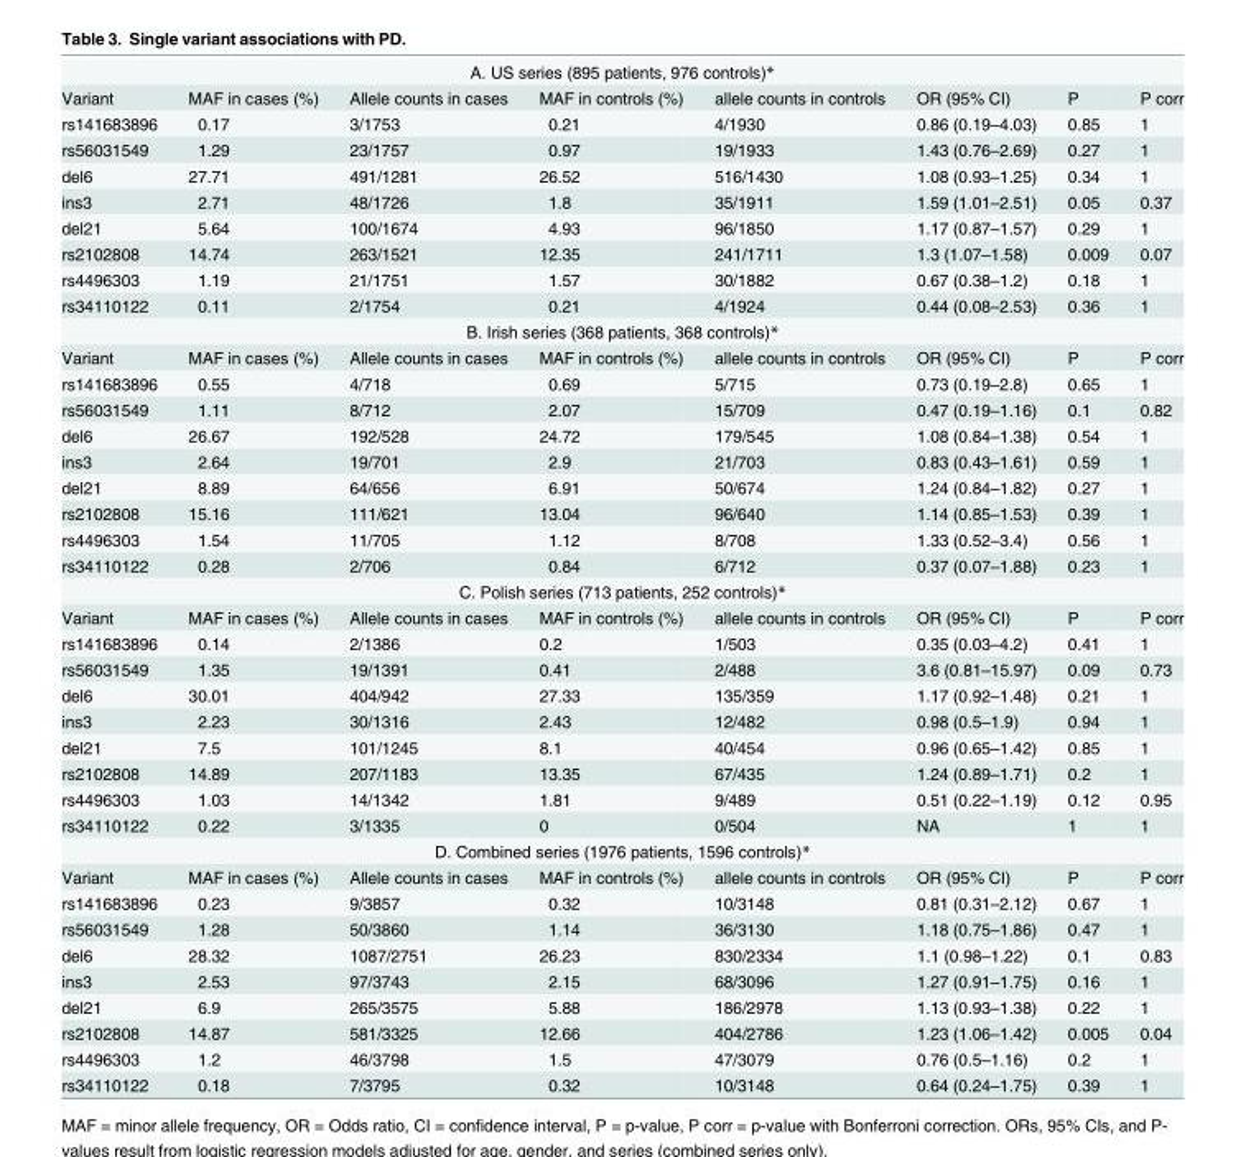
<table><tbody><tr><td colspan="8">A. US series (895 patients, 976 controls)*</td></tr><tr><td>Variant</td><td>MAF in cases (%)</td><td>Allele counts in cases</td><td>MAF in controls (%)</td><td>allele counts in controls</td><td>OR (95% CI)</td><td>P</td><td>P corr</td></tr><tr><td>rs141683896</td><td>0.17</td><td>3/1753</td><td>0.21</td><td>4/1930</td><td>0.86 (0.19–4.03)</td><td>0.85</td><td>1</td></tr><tr><td>rs56031549</td><td>1.29</td><td>23/1757</td><td>0.97</td><td>19/1933</td><td>1.43 (0.76–2.69)</td><td>0.27</td><td>1</td></tr><tr><td>del6</td><td>27.71</td><td>491/1281</td><td>26.52</td><td>516/1430</td><td>1.08 (0.93–1.25)</td><td>0.34</td><td>1</td></tr><tr><td>ins3</td><td>2.71</td><td>48/1726</td><td>1.8</td><td>35/1911</td><td>1.59 (1.01–2.51)</td><td>0.05</td><td>0.37</td></tr><tr><td>del21</td><td>5.64</td><td>100/1674</td><td>4.93</td><td>96/1850</td><td>1.17 (0.87–1.57)</td><td>0.29</td><td>1</td></tr><tr><td>rs2102808</td><td>14.74</td><td>263/1521</td><td>12.35</td><td>241/1711</td><td>1.3 (1.07–1.58)</td><td>0.009</td><td>0.07</td></tr><tr><td>rs4496303</td><td>1.19</td><td>21/1751</td><td>1.57</td><td>30/1882</td><td>0.67 (0.38–1.2)</td><td>0.18</td><td>1</td></tr><tr><td>rs34110122</td><td>0.11</td><td>2/1754</td><td>0.21</td><td>4/1924</td><td>0.44 (0.08–2.53)</td><td>0.36</td><td>1</td></tr><tr><td colspan="8">B. Irish series (368 patients, 368 controls)*</td></tr><tr><td>Variant</td><td>MAF in cases (%)</td><td>Allele counts in cases</td><td>MAF in controls (%)</td><td>allele counts in controls</td><td>OR (95% CI)</td><td>P</td><td>P corr</td></tr><tr><td>rs141683896</td><td>0.55</td><td>4/718</td><td>0.69</td><td>5/715</td><td>0.73 (0.19–2.8)</td><td>0.65</td><td>1</td></tr><tr><td>rs56031549</td><td>1.11</td><td>8/712</td><td>2.07</td><td>15/709</td><td>0.47 (0.19–1.16)</td><td>0.1</td><td>0.82</td></tr><tr><td>del6</td><td>26.67</td><td>192/528</td><td>24.72</td><td>179/545</td><td>1.08 (0.84–1.38)</td><td>0.54</td><td>1</td></tr><tr><td>ins3</td><td>2.64</td><td>19/701</td><td>2.9</td><td>21/703</td><td>0.83 (0.43–1.61)</td><td>0.59</td><td>1</td></tr><tr><td>del21</td><td>8.89</td><td>64/656</td><td>6.91</td><td>50/674</td><td>1.24 (0.84–1.82)</td><td>0.27</td><td>1</td></tr><tr><td>rs2102808</td><td>15.16</td><td>111/621</td><td>13.04</td><td>96/640</td><td>1.14 (0.85–1.53)</td><td>0.39</td><td>1</td></tr><tr><td>rs4496303</td><td>1.54</td><td>11/705</td><td>1.12</td><td>8/708</td><td>1.33 (0.52–3.4)</td><td>0.56</td><td>1</td></tr><tr><td>rs34110122</td><td>0.28</td><td>2/706</td><td>0.84</td><td>6/712</td><td>0.37 (0.07–1.88)</td><td>0.23</td><td>1</td></tr><tr><td colspan="8">C. Polish series (713 patients, 252 controls)*</td></tr><tr><td>Variant</td><td>MAF in cases (%)</td><td>Allele counts in cases</td><td>MAF in controls (%)</td><td>allele counts in controls</td><td>OR (95% CI)</td><td>P</td><td>P corr</td></tr><tr><td>rs141683896</td><td>0.14</td><td>2/1386</td><td>0.2</td><td>1/503</td><td>0.35 (0.03–4.2)</td><td>0.41</td><td>1</td></tr><tr><td>rs56031549</td><td>1.35</td><td>19/1391</td><td>0.41</td><td>2/488</td><td>3.6 (0.81–15.97)</td><td>0.09</td><td>0.73</td></tr><tr><td>del6</td><td>30.01</td><td>404/942</td><td>27.33</td><td>135/359</td><td>1.17 (0.92–1.48)</td><td>0.21</td><td>1</td></tr><tr><td>ins3</td><td>2.23</td><td>30/1316</td><td>2.43</td><td>12/482</td><td>0.98 (0.5–1.9)</td><td>0.94</td><td>1</td></tr><tr><td>del21</td><td>7.5</td><td>101/1245</td><td>8.1</td><td>40/454</td><td>0.96 (0.65–1.42)</td><td>0.85</td><td>1</td></tr><tr><td>rs2102808</td><td>14.89</td><td>207/1183</td><td>13.35</td><td>67/435</td><td>1.24 (0.89–1.71)</td><td>0.2</td><td>1</td></tr><tr><td>rs4496303</td><td>1.03</td><td>14/1342</td><td>1.81</td><td>9/489</td><td>0.51 (0.22–1.19)</td><td>0.12</td><td>0.95</td></tr><tr><td>rs34110122</td><td>0.22</td><td>3/1335</td><td>0</td><td>0/504</td><td>NA</td><td>1</td><td>1</td></tr><tr><td colspan="8">D. Combined series (1976 patients, 1596 controls)*</td></tr><tr><td>Variant</td><td>MAF in cases (%)</td><td>Allele counts in cases</td><td>MAF in controls (%)</td><td>allele counts in controls</td><td>OR (95% CI)</td><td>P</td><td>P corr</td></tr><tr><td>rs141683896</td><td>0.23</td><td>9/3857</td><td>0.32</td><td>10/3148</td><td>0.81 (0.31–2.12)</td><td>0.67</td><td>1</td></tr><tr><td>rs56031549</td><td>1.28</td><td>50/3860</td><td>1.14</td><td>36/3130</td><td>1.18 (0.75–1.86)</td><td>0.47</td><td>1</td></tr><tr><td>del6</td><td>28.32</td><td>1087/2751</td><td>26.23</td><td>830/2334</td><td>1.1 (0.98–1.22)</td><td>0.1</td><td>0.83</td></tr><tr><td>ins3</td><td>2.53</td><td>97/3743</td><td>2.15</td><td>68/3096</td><td>1.27 (0.91–1.75)</td><td>0.16</td><td>1</td></tr><tr><td>del21</td><td>6.9</td><td>265/3575</td><td>5.88</td><td>186/2978</td><td>1.13 (0.93–1.38)</td><td>0.22</td><td>1</td></tr><tr><td>rs2102808</td><td>14.87</td><td>581/3325</td><td>12.66</td><td>404/2786</td><td>1.23 (1.06–1.42)</td><td>0.005</td><td>0.04</td></tr><tr><td>rs4496303</td><td>1.2</td><td>46/3798</td><td>1.5</td><td>47/3079</td><td>0.76 (0.5–1.16)</td><td>0.2</td><td>1</td></tr><tr><td>rs34110122</td><td>0.18</td><td>7/3795</td><td>0.32</td><td>10/3148</td><td>0.64 (0.24–1.75)</td><td>0.39</td><td>1</td></tr></tbody></table>